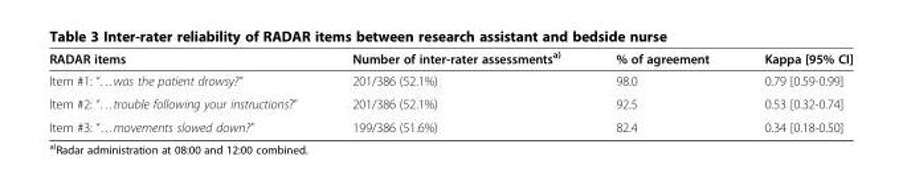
<table><thead><tr><td>RADAR items</td><td>Number of inter-rater assessments<sup>a)</sup></td><td>% of agreement</td><td>Kappa [95% CI]</td></tr></thead><tbody><tr><td>Item #1: “…was the patient drowsy?”</td><td>201/386 (52.1%)</td><td>98.0</td><td>0.79 [0.59-0.99]</td></tr><tr><td>Item #2: “…trouble following your instructions?”</td><td>201/386 (52.1%)</td><td>92.5</td><td>0.53 [0.32-0.74]</td></tr><tr><td>Item #3: “…movements slowed down?”</td><td>199/386 (51.6%)</td><td>82.4</td><td>0.34 [0.18-0.50]</td></tr></tbody></table>